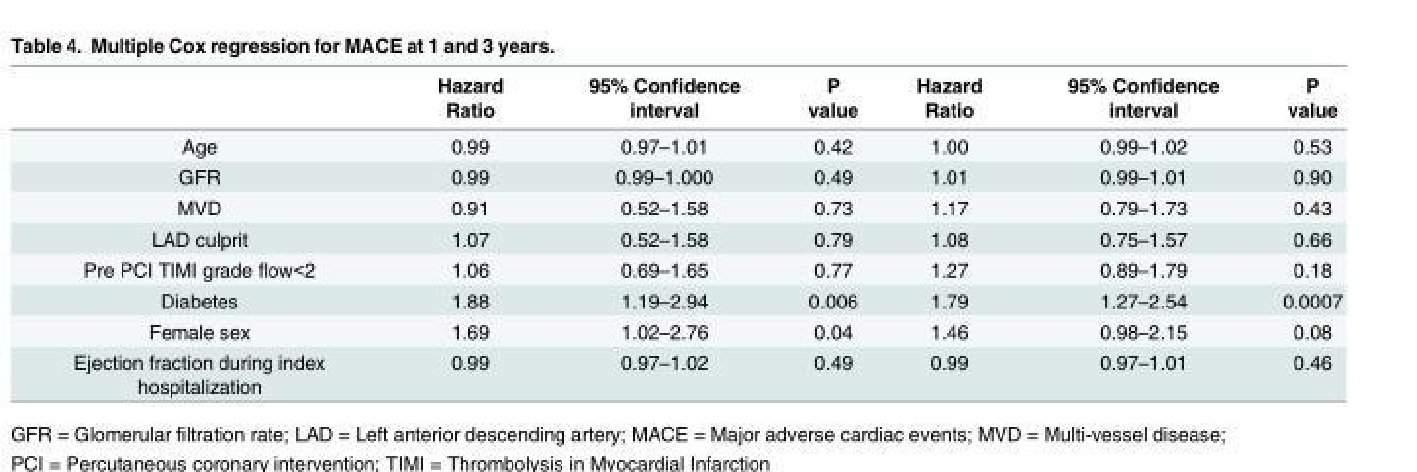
<table><thead><tr><td></td><td>Hazard Ratio</td><td>95% Confidence interval</td><td>P value</td><td>Hazard Ratio</td><td>95% Confidence interval</td><td>P value</td></tr></thead><tbody><tr><td>Age</td><td>0.99</td><td>0.97–1.01</td><td>0.42</td><td>1.00</td><td>0.99–1.02</td><td>0.53</td></tr><tr><td>GFR</td><td>0.99</td><td>0.99–1.000</td><td>0.49</td><td>1.01</td><td>0.99–1.01</td><td>0.90</td></tr><tr><td>MVD</td><td>0.91</td><td>0.52–1.58</td><td>0.73</td><td>1.17</td><td>0.79–1.73</td><td>0.43</td></tr><tr><td>LAD culprit</td><td>1.07</td><td>0.52–1.58</td><td>0.79</td><td>1.08</td><td>0.75–1.57</td><td>0.66</td></tr><tr><td>Pre PCI TIMI grade flow&lt;2</td><td>1.06</td><td>0.69–1.65</td><td>0.77</td><td>1.27</td><td>0.89–1.79</td><td>0.18</td></tr><tr><td>Diabetes</td><td>1.88</td><td>1.19–2.94</td><td>0.006</td><td>1.79</td><td>1.27–2.54</td><td>0.0007</td></tr><tr><td>Female sex</td><td>1.69</td><td>1.02–2.76</td><td>0.04</td><td>1.46</td><td>0.98–2.15</td><td>0.08</td></tr><tr><td>Ejection fraction during index hospitalization</td><td>0.99</td><td>0.97–1.02</td><td>0.49</td><td>0.99</td><td>0.97–1.01</td><td>0.46</td></tr></tbody></table>